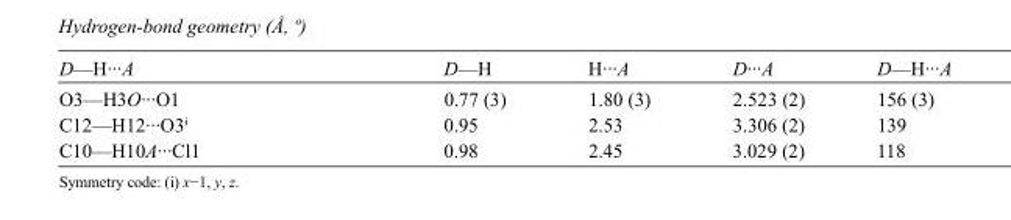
<table><tbody><tr><td>D—H···A</td><td>D—H</td><td>H···A</td><td>D···A</td><td>D—H···A</td></tr><tr><td>O3—H3O···O1</td><td>0.77 (3)</td><td>1.80 (3)</td><td>2.523 (2)</td><td>156 (3)</td></tr><tr><td>C12—H12···O3<sup>i</sup></td><td>0.95</td><td>2.53</td><td>3.306 (2)</td><td>139</td></tr><tr><td>C10—H10A···Cl1</td><td>0.98</td><td>2.45</td><td>3.029 (2)</td><td>118</td></tr></tbody></table>